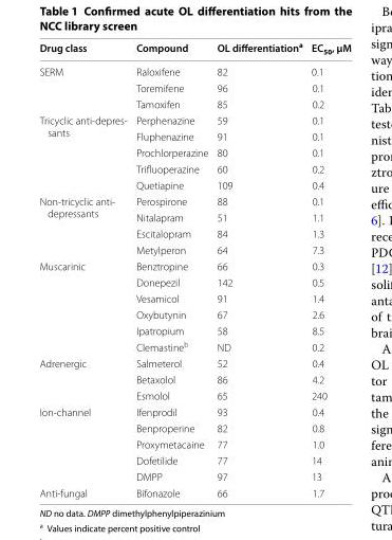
<table><thead><tr><td>Drug class</td><td>Compound</td><td>OL differentiation<sup>a</sup></td><td>EC<sub>50</sub>, μM</td></tr></thead><tbody><tr><td rowspan="3">SERM</td><td>Raloxifene</td><td>82</td><td>0.1</td></tr><tr><td>Toremifene</td><td>96</td><td>0.1</td></tr><tr><td>Tamoxifen</td><td>85</td><td>0.2</td></tr><tr><td rowspan="5">Tricyclic anti‑depres‑ sants</td><td>Perphenazine</td><td>59</td><td>0.1</td></tr><tr><td>Fluphenazine</td><td>91</td><td>0.1</td></tr><tr><td>Prochlorperazine</td><td>80</td><td>0.1</td></tr><tr><td>Trifluoperazine</td><td>60</td><td>0.2</td></tr><tr><td>Quetiapine</td><td>109</td><td>0.4</td></tr><tr><td rowspan="4">Non‑tricyclic anti‑ depressants</td><td>Perospirone</td><td>88</td><td>0.1</td></tr><tr><td>Nitalapram</td><td>51</td><td>1.1</td></tr><tr><td>Escitalopram</td><td>84</td><td>1.3</td></tr><tr><td>Metylperon</td><td>64</td><td>7.3</td></tr><tr><td rowspan="6">Muscarinic</td><td>Benztropine</td><td>66</td><td>0.3</td></tr><tr><td>Donepezil</td><td>142</td><td>0.5</td></tr><tr><td>Vesamicol</td><td>91</td><td>1.4</td></tr><tr><td>Oxybutynin</td><td>67</td><td>2.6</td></tr><tr><td>Ipatropium</td><td>58</td><td>8.5</td></tr><tr><td>Clemastine<sup>b</sup></td><td>ND</td><td>0.2</td></tr><tr><td rowspan="3">Adrenergic</td><td>Salmeterol</td><td>52</td><td>0.4</td></tr><tr><td>Betaxolol</td><td>86</td><td>4.2</td></tr><tr><td>Esmolol</td><td>65</td><td>240</td></tr><tr><td rowspan="5">Ion‑channel</td><td>Ifenprodil</td><td>93</td><td>0.4</td></tr><tr><td>Benproperine</td><td>82</td><td>0.8</td></tr><tr><td>Proxymetacaine</td><td>77</td><td>1.0</td></tr><tr><td>Dofetilide</td><td>77</td><td>14</td></tr><tr><td>DMPP</td><td>97</td><td>13</td></tr><tr><td>Anti‑fungal</td><td>Bifonazole</td><td>66</td><td>1.7</td></tr></tbody></table>